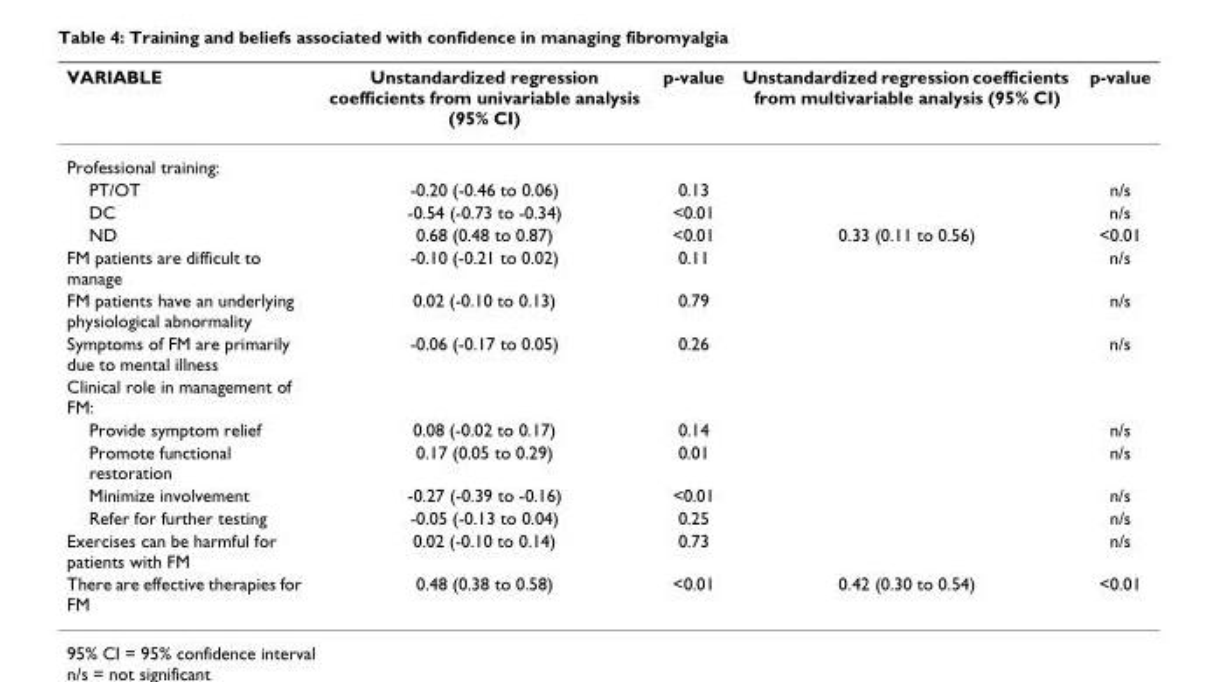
<table><thead><tr><td>VARIABLE</td><td>Unstandardized regression coefficients from univariable analysis (95% CI)</td><td>p-value</td><td>Unstandardized regression coefficients from multivariable analysis (95% CI)</td><td>p-value</td></tr></thead><tbody><tr><td colspan="5">Professional training:</td></tr><tr><td>PT/OT</td><td>-0.20 (-0.46 to 0.06)</td><td>0.13</td><td></td><td>n/s</td></tr><tr><td>DC</td><td>-0.54 (-0.73 to -0.34)</td><td>&lt;0.01</td><td></td><td>n/s</td></tr><tr><td>ND</td><td>0.68 (0.48 to 0.87)</td><td>&lt;0.01</td><td>0.33 (0.11 to 0.56)</td><td>&lt;0.01</td></tr><tr><td>FM patients are difficult to manage</td><td>-0.10 (-0.21 to 0.02)</td><td>0.11</td><td></td><td>n/s</td></tr><tr><td>FM patients have an underlying physiological abnormality</td><td>0.02 (-0.10 to 0.13)</td><td>0.79</td><td></td><td>n/s</td></tr><tr><td>Symptoms of FM are primarily due to mental illness</td><td>-0.06 (-0.17 to 0.05)</td><td>0.26</td><td></td><td>n/s</td></tr><tr><td colspan="5">Clinical role in management of FM:</td></tr><tr><td>Provide symptom relief</td><td>0.08 (-0.02 to 0.17)</td><td>0.14</td><td></td><td>n/s</td></tr><tr><td>Promote functional restoration</td><td>0.17 (0.05 to 0.29)</td><td>0.01</td><td></td><td>n/s</td></tr><tr><td>Minimize involvement</td><td>-0.27 (-0.39 to -0.16)</td><td>&lt;0.01</td><td></td><td>n/s</td></tr><tr><td>Refer for further testing</td><td>-0.05 (-0.13 to 0.04)</td><td>0.25</td><td></td><td>n/s</td></tr><tr><td>Exercises can be harmful for patients with FM</td><td>0.02 (-0.10 to 0.14)</td><td>0.73</td><td></td><td>n/s</td></tr><tr><td>There are effective therapies for FM</td><td>0.48 (0.38 to 0.58)</td><td>&lt;0.01</td><td>0.42 (0.30 to 0.54)</td><td>&lt;0.01</td></tr></tbody></table>